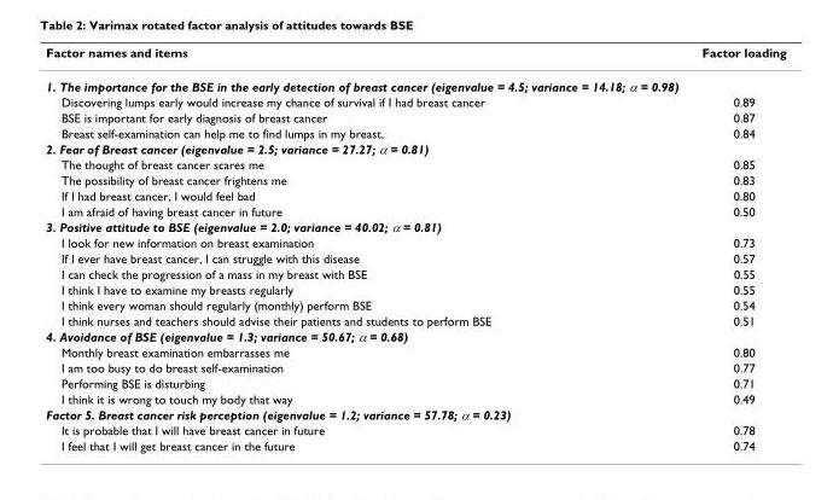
<table><thead><tr><td>Factor names and items</td><td>Factor loading</td></tr></thead><tbody><tr><td colspan="2">1. The importance for the BSE in the early detection of breast cancer (eigenvalue = 4.5; variance = 14.18; α = 0.98)</td></tr><tr><td>Discovering lumps early would increase my chance of survival if I had breast cancer</td><td>0.89</td></tr><tr><td>BSE is important for early diagnosis of breast cancer</td><td>0.87</td></tr><tr><td>Breast self-examination can help me to find lumps in my breast,</td><td>0.84</td></tr><tr><td colspan="2">2. Fear of Breast cancer (eigenvalue = 2.5; variance = 27.27; α = 0.81)</td></tr><tr><td>The thought of breast cancer scares me</td><td>0.85</td></tr><tr><td>The possibility of breast cancer frightens me</td><td>0.83</td></tr><tr><td>If I had breast cancer, I would feel bad</td><td>0.80</td></tr><tr><td>I am afraid of having breast cancer in future</td><td>0.50</td></tr><tr><td colspan="2">3. Positive attitude to BSE (eigenvalue = 2.0; variance = 40.02; α = 0.81)</td></tr><tr><td>I look for new information on breast examination</td><td>0.73</td></tr><tr><td>If I ever have breast cancer, I can struggle with this disease</td><td>0.57</td></tr><tr><td>I can check the progression of a mass in my breast with BSE</td><td>0.55</td></tr><tr><td>I think I have to examine my breasts regularly</td><td>0.55</td></tr><tr><td>I think every woman should regularly (monthly) perform BSE</td><td>0.54</td></tr><tr><td>I think nurses and teachers should advise their patients and students to perform BSE</td><td>0.51</td></tr><tr><td colspan="2">4. Avoidance of BSE (eigenvalue = 1.3; variance = 50.67; α = 0.68)</td></tr><tr><td>Monthly breast examination embarrasses me</td><td>0.80</td></tr><tr><td>I am too busy to do breast self-examination</td><td>0.77</td></tr><tr><td>Performing BSE is disturbing</td><td>0.71</td></tr><tr><td>I think it is wrong to touch my body that way</td><td>0.49</td></tr><tr><td colspan="2">Factor 5. Breast cancer risk perception (eigenvalue = 1.2; variance = 57.78; α = 0.23)</td></tr><tr><td>It is probable that I will have breast cancer in future</td><td>0.78</td></tr><tr><td>I feel that I will get breast cancer in the future</td><td>0.74</td></tr></tbody></table>